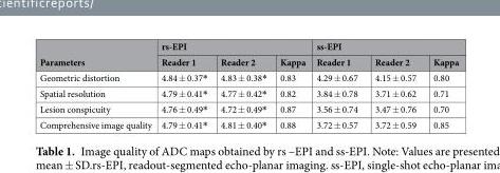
<table><thead><tr><td rowspan="2">Parameters</td><td colspan="3">rs-EPI</td><td colspan="3">ss-EPI</td></tr><tr><td>Reader 1</td><td>Reader 2</td><td>Kappa</td><td>Reader 1</td><td>Reader 2</td><td>Kappa</td></tr></thead><tbody><tr><td>Geometric distortion</td><td>4.84 ± 0.37*</td><td>4.83 ± 0.38*</td><td>0.83</td><td>4.29 ± 0.67</td><td>4.15 ± 0.57</td><td>0.80</td></tr><tr><td>Spatial resolution</td><td>4.79 ± 0.41*</td><td>4.77 ± 0.42*</td><td>0.82</td><td>3.84 ± 0.78</td><td>3.71 ± 0.62</td><td>0.71</td></tr><tr><td>Lesion conspicuity</td><td>4.76 ± 0.49*</td><td>4.72 ± 0.49*</td><td>0.87</td><td>3.56 ± 0.74</td><td>3.47 ± 0.76</td><td>0.70</td></tr><tr><td>Comprehensive image quality</td><td>4.79 ± 0.41*</td><td>4.81 ± 0.40*</td><td>0.88</td><td>3.72 ± 0.57</td><td>3.72 ± 0.59</td><td>0.85</td></tr></tbody></table>